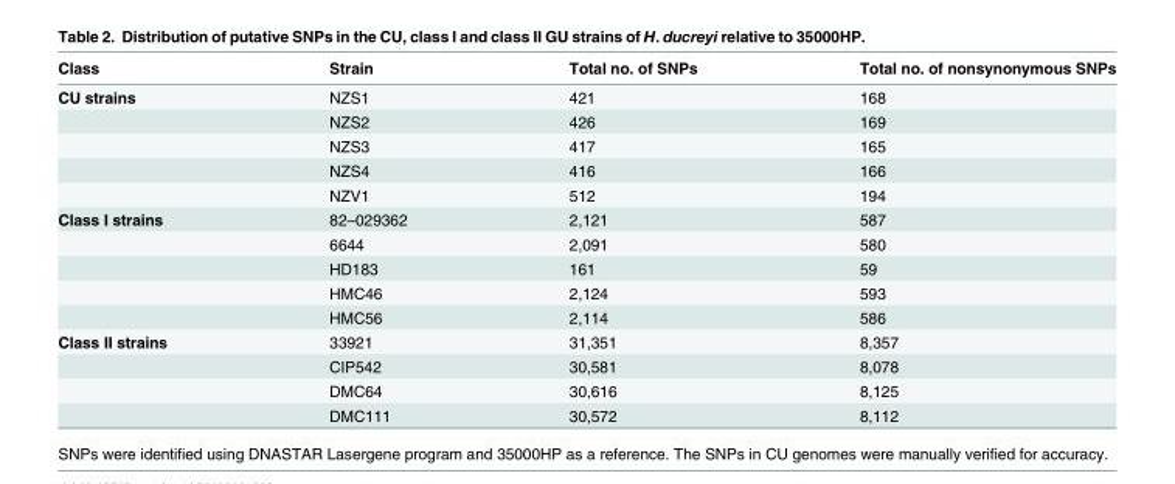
<table><thead><tr><td>Class</td><td>Strain</td><td>Total no. of SNPs</td><td>Total no. of nonsynonymous SNPs</td></tr></thead><tbody><tr><td rowspan="5">CU strains</td><td>NZS1</td><td>421</td><td>168</td></tr><tr><td>NZS2</td><td>426</td><td>169</td></tr><tr><td>NZS3</td><td>417</td><td>165</td></tr><tr><td>NZS4</td><td>416</td><td>166</td></tr><tr><td>NZV1</td><td>512</td><td>194</td></tr><tr><td rowspan="5">Class I strains</td><td>82–029362</td><td>2,121</td><td>587</td></tr><tr><td>6644</td><td>2,091</td><td>580</td></tr><tr><td>HD183</td><td>161</td><td>59</td></tr><tr><td>HMC46</td><td>2,124</td><td>593</td></tr><tr><td>HMC56</td><td>2,114</td><td>586</td></tr><tr><td rowspan="4">Class II strains</td><td>33921</td><td>31,351</td><td>8,357</td></tr><tr><td>CIP542</td><td>30,581</td><td>8,078</td></tr><tr><td>DMC64</td><td>30,616</td><td>8,125</td></tr><tr><td>DMC111</td><td>30,572</td><td>8,112</td></tr></tbody></table>